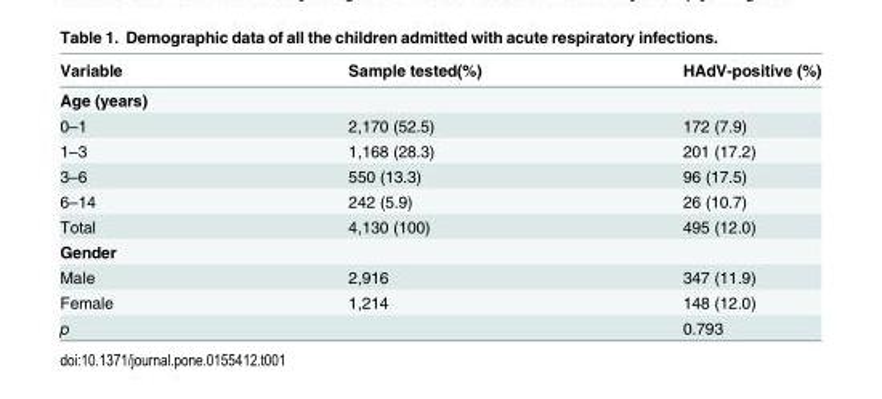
<table><thead><tr><td>Variable</td><td>Sample tested(%)</td><td>HAdV-positive (%)</td></tr></thead><tbody><tr><td colspan="3">Age (years)</td></tr><tr><td>0–1</td><td>2,170 (52.5)</td><td>172 (7.9)</td></tr><tr><td>1–3</td><td>1,168 (28.3)</td><td>201 (17.2)</td></tr><tr><td>3–6</td><td>550 (13.3)</td><td>96 (17.5)</td></tr><tr><td>6–14</td><td>242 (5.9)</td><td>26 (10.7)</td></tr><tr><td>Total</td><td>4,130 (100)</td><td>495 (12.0)</td></tr><tr><td colspan="3">Gender</td></tr><tr><td>Male</td><td>2,916</td><td>347 (11.9)</td></tr><tr><td>Female</td><td>1,214</td><td>148 (12.0)</td></tr><tr><td>p</td><td></td><td>0.793</td></tr></tbody></table>